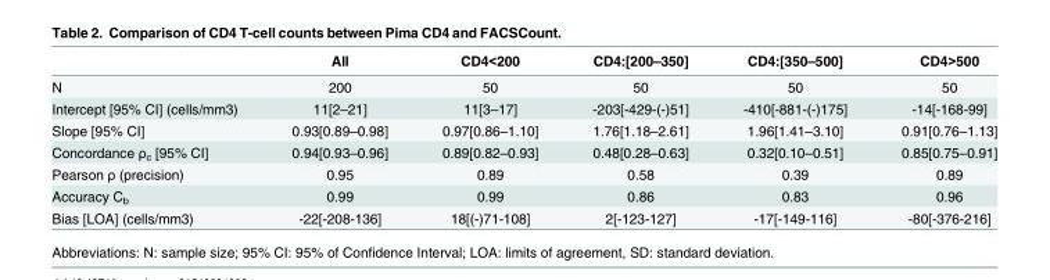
<table><thead><tr><td></td><td>All</td><td>CD4&lt;200</td><td>CD4:[200–350]</td><td>CD4:[350–500]</td><td>CD4&gt;500</td></tr></thead><tbody><tr><td>N</td><td>200</td><td>50</td><td>50</td><td>50</td><td>50</td></tr><tr><td>Intercept [95% CI] (cells/mm3)</td><td>11[2–21]</td><td>11[3–17]</td><td>-203[-429-(-)51]</td><td>-410[-881-(-)175]</td><td>-14[-168-99]</td></tr><tr><td>Slope [95% CI]</td><td>0.93[0.89–0.98]</td><td>0.97[0.86–1.10]</td><td>1.76[1.18–2.61]</td><td>1.96[1.41–3.10]</td><td>0.91[0.76–1.13]</td></tr><tr><td>Concordance ρ<sub>c</sub> [95% CI]</td><td>0.94[0.93–0.96]</td><td>0.89[0.82–0.93]</td><td>0.48[0.28–0.63]</td><td>0.32[0.10–0.51]</td><td>0.85[0.75–0.91]</td></tr><tr><td>Pearson ρ (precision)</td><td>0.95</td><td>0.89</td><td>0.58</td><td>0.39</td><td>0.89</td></tr><tr><td>Accuracy C<sub>b</sub></td><td>0.99</td><td>0.99</td><td>0.86</td><td>0.83</td><td>0.96</td></tr><tr><td>Bias [LOA] (cells/mm3)</td><td>-22[-208-136]</td><td>18[(-)71-108]</td><td>2[-123-127]</td><td>-17[-149-116]</td><td>-80[-376-216]</td></tr></tbody></table>